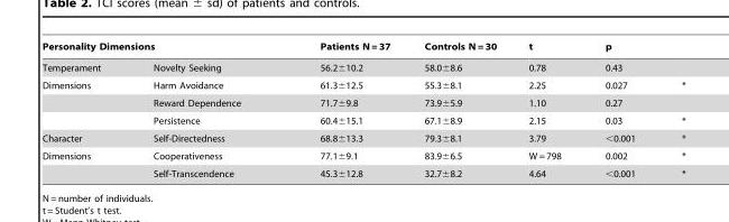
<table><thead><tr><td colspan="2">Personality Dimensions</td><td rowspan="2">Patients N = 37 56.2±10.2</td><td rowspan="2">Controls N = 30 58.0±8.6</td><td rowspan="2">t 0.78</td><td rowspan="2">p 0.43</td><td rowspan="2"></td></tr><tr><td>Temperament</td><td>Novelty Seeking</td></tr></thead><tbody><tr><td rowspan="3">Dimensions</td><td>Harm Avoidance</td><td>61.3±12.5</td><td>55.3±8.1</td><td>2.25</td><td>0.027</td><td>*</td></tr><tr><td>Reward Dependence</td><td>71.7±9.8</td><td>73.9±5.9</td><td>1.10</td><td>0.27</td><td></td></tr><tr><td>Persistence</td><td>60.4±15.1</td><td>67.1±8.9</td><td>2.15</td><td>0.03</td><td>*</td></tr><tr><td>Character</td><td>Self-Directedness</td><td>68.8±13.3</td><td>79.3±8.1</td><td>3.79</td><td>&lt;0.001</td><td>*</td></tr><tr><td rowspan="2">Dimensions</td><td>Cooperativeness</td><td>77.1±9.1</td><td>83.9±6.5</td><td>W = 798</td><td>0.002</td><td>*</td></tr><tr><td>Self-Transcendence</td><td>45.3±12.8</td><td>32.7±8.2</td><td>4.64</td><td>&lt;0.001</td><td>*</td></tr></tbody></table>